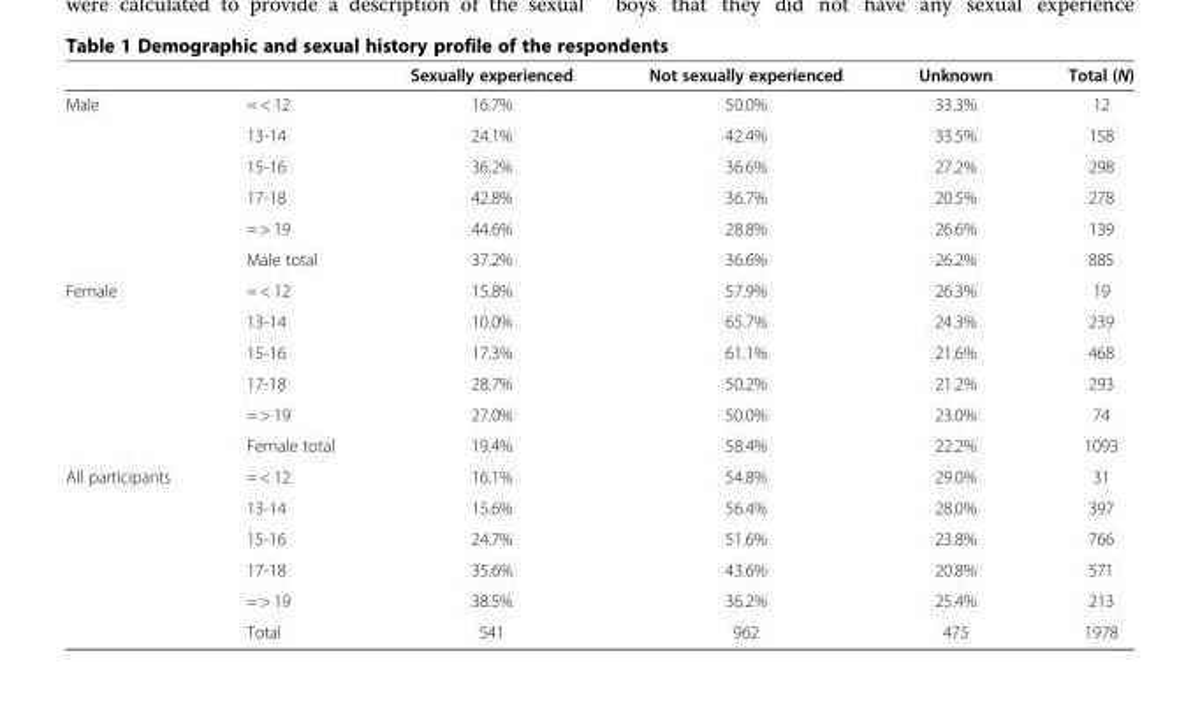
<table><thead><tr><td></td><td></td><td>Sexually experienced</td><td>Not sexually experienced</td><td>Unknown</td><td>Total (N)</td></tr></thead><tbody><tr><td rowspan="6">Male</td><td>= &lt; 12</td><td>16.7%</td><td>50.0%</td><td>33.3%</td><td>12</td></tr><tr><td>13-14</td><td>24.1%</td><td>42.4%</td><td>33.5%</td><td>158</td></tr><tr><td>15-16</td><td>36.2%</td><td>36.6%</td><td>27.2%</td><td>298</td></tr><tr><td>17-18</td><td>42.8%</td><td>36.7%</td><td>20.5%</td><td>278</td></tr><tr><td>= &gt; 19</td><td>44.6%</td><td>28.8%</td><td>26.6%</td><td>139</td></tr><tr><td>Male total</td><td>37.2%</td><td>36.6%</td><td>26.2%</td><td>885</td></tr><tr><td rowspan="6">Female</td><td>= &lt; 12</td><td>15.8%</td><td>57.9%</td><td>26.3%</td><td>19</td></tr><tr><td>13-14</td><td>10.0%</td><td>65.7%</td><td>24.3%</td><td>239</td></tr><tr><td>15-16</td><td>17.3%</td><td>61.1%</td><td>21.6%</td><td>468</td></tr><tr><td>17-18</td><td>28.7%</td><td>50.2%</td><td>21.2%</td><td>293</td></tr><tr><td>= &gt; 19</td><td>27.0%</td><td>50.0%</td><td>23.0%</td><td>74</td></tr><tr><td>Female total</td><td>19.4%</td><td>58.4%</td><td>22.2%</td><td>1093</td></tr><tr><td rowspan="6">All participants</td><td>= &lt; 12</td><td>16.1%</td><td>54.8%</td><td>29.0%</td><td>31</td></tr><tr><td>13-14</td><td>15.6%</td><td>56.4%</td><td>28.0%</td><td>397</td></tr><tr><td>15-16</td><td>24.7%</td><td>51.6%</td><td>23.8%</td><td>766</td></tr><tr><td>17-18</td><td>35.6%</td><td>43.6%</td><td>20.8%</td><td>571</td></tr><tr><td>= &gt; 19</td><td>38.5%</td><td>36.2%</td><td>25.4%</td><td>213</td></tr><tr><td>Total</td><td>541</td><td>962</td><td>475</td><td>1978</td></tr></tbody></table>